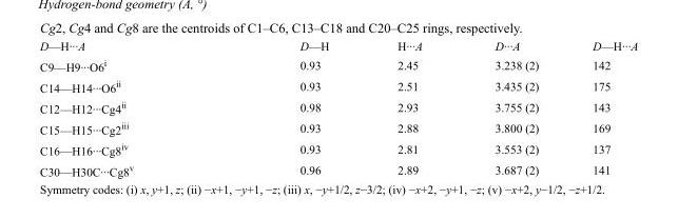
<table><tbody><tr><td>D—H···A</td><td>D—H</td><td>H···A</td><td>D···A</td><td>D—H···A</td></tr><tr><td>C9—H9···O6<sup>i</sup></td><td>0.93</td><td>2.45</td><td>3.238 (2)</td><td>142</td></tr><tr><td>C14—H14···O6<sup>ii</sup></td><td>0.93</td><td>2.51</td><td>3.435 (2)</td><td>175</td></tr><tr><td>C12—H12···Cg4<sup>ii</sup></td><td>0.98</td><td>2.93</td><td>3.755 (2)</td><td>143</td></tr><tr><td>C15—H15···Cg2<sup>iii</sup></td><td>0.93</td><td>2.88</td><td>3.800 (2)</td><td>169</td></tr><tr><td>C16—H16···Cg8<sup>iv</sup></td><td>0.93</td><td>2.81</td><td>3.553 (2)</td><td>137</td></tr><tr><td>C30—H30C···Cg8<sup>v</sup></td><td>0.96</td><td>2.89</td><td>3.687 (2)</td><td>141</td></tr></tbody></table>